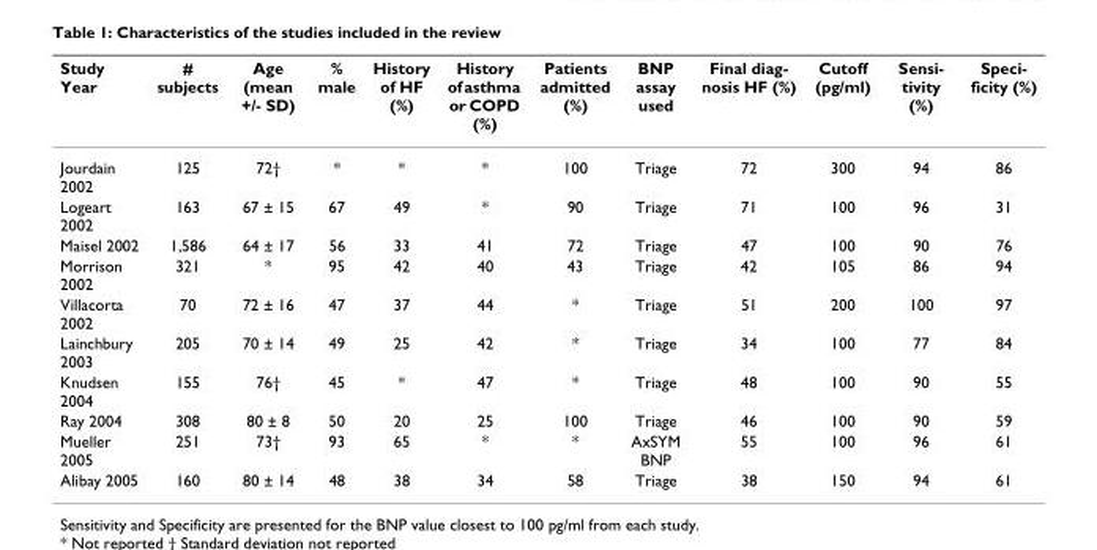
<table><thead><tr><td>Study Year</td><td># subjects</td><td>Age (mean +/- SD)</td><td>% male</td><td>History of HF (%)</td><td>History of asthma or COPD (%)</td><td>Patients admitted (%)</td><td>BNP assay used</td><td>Final diag- nosis HF (%)</td><td>Cutoff (pg/ml)</td><td>Sensi- tivity (%)</td><td>Speci- ficity (%)</td></tr></thead><tbody><tr><td>Jourdain 2002</td><td>125</td><td>72†</td><td>*</td><td>*</td><td>*</td><td>100</td><td>Triage</td><td>72</td><td>300</td><td>94</td><td>86</td></tr><tr><td>Logeart 2002</td><td>163</td><td>67 ± 15</td><td>67</td><td>49</td><td>*</td><td>90</td><td>Triage</td><td>71</td><td>100</td><td>96</td><td>31</td></tr><tr><td>Maisel 2002</td><td>1,586</td><td>64 ± 17</td><td>56</td><td>33</td><td>41</td><td>72</td><td>Triage</td><td>47</td><td>100</td><td>90</td><td>76</td></tr><tr><td>Morrison 2002</td><td>321</td><td>*</td><td>95</td><td>42</td><td>40</td><td>43</td><td>Triage</td><td>42</td><td>105</td><td>86</td><td>94</td></tr><tr><td>Villacorta 2002</td><td>70</td><td>72 ± 16</td><td>47</td><td>37</td><td>44</td><td>*</td><td>Triage</td><td>51</td><td>200</td><td>100</td><td>97</td></tr><tr><td>Lainchbury 2003</td><td>205</td><td>70 ± 14</td><td>49</td><td>25</td><td>42</td><td>*</td><td>Triage</td><td>34</td><td>100</td><td>77</td><td>84</td></tr><tr><td>Knudsen 2004</td><td>155</td><td>76†</td><td>45</td><td>*</td><td>47</td><td>*</td><td>Triage</td><td>48</td><td>100</td><td>90</td><td>55</td></tr><tr><td>Ray 2004</td><td>308</td><td>80 ± 8</td><td>50</td><td>20</td><td>25</td><td>100</td><td>Triage</td><td>46</td><td>100</td><td>90</td><td>59</td></tr><tr><td>Mueller 2005</td><td>251</td><td>73†</td><td>93</td><td>65</td><td>*</td><td>*</td><td>AxSYM BNP</td><td>55</td><td>100</td><td>96</td><td>61</td></tr><tr><td>Alibay 2005</td><td>160</td><td>80 ± 14</td><td>48</td><td>38</td><td>34</td><td>58</td><td>Triage</td><td>38</td><td>150</td><td>94</td><td>61</td></tr></tbody></table>